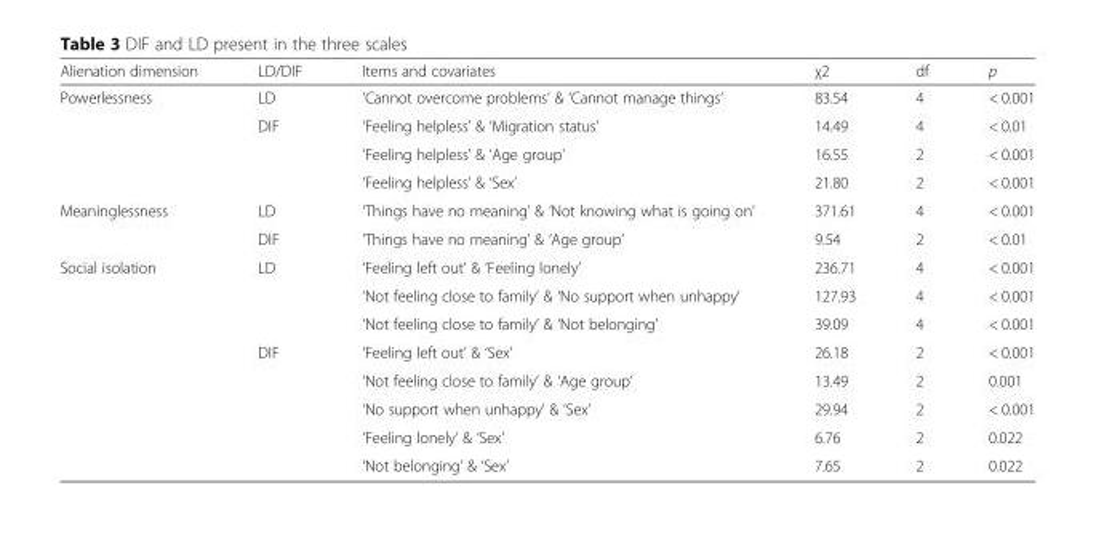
<table><thead><tr><td>Alienation dimension</td><td>LD/DIF</td><td>Items and covariates</td><td>χ2</td><td>df</td><td>p</td></tr></thead><tbody><tr><td rowspan="4">Powerlessness</td><td>LD</td><td>‘Cannot overcome problems’ &amp; ‘Cannot manage things’</td><td>83.54</td><td>4</td><td>&lt; 0.001</td></tr><tr><td rowspan="3">DIF</td><td>‘Feeling helpless’ &amp; ‘Migration status’</td><td>14.49</td><td>4</td><td>&lt; 0.01</td></tr><tr><td>‘Feeling helpless’ &amp; ‘Age group’</td><td>16.55</td><td>2</td><td>&lt; 0.001</td></tr><tr><td>‘Feeling helpless’ &amp; ‘Sex’</td><td>21.80</td><td>2</td><td>&lt; 0.001</td></tr><tr><td rowspan="2">Meaninglessness</td><td>LD</td><td>‘Things have no meaning’ &amp; ‘Not knowing what is going on’</td><td>371.61</td><td>4</td><td>&lt; 0.001</td></tr><tr><td>DIF</td><td>‘Things have no meaning’ &amp; ‘Age group’</td><td>9.54</td><td>2</td><td>&lt; 0.01</td></tr><tr><td rowspan="8">Social isolation</td><td>LD</td><td>‘Feeling left out’ &amp; ‘Feeling lonely’</td><td>236.71</td><td>4</td><td>&lt; 0.001</td></tr><tr><td></td><td>‘Not feeling close to family’ &amp; ‘No support when unhappy’</td><td>127.93</td><td>4</td><td>&lt; 0.001</td></tr><tr><td></td><td>‘Not feeling close to family’ &amp; ‘Not belonging’</td><td>39.09</td><td>4</td><td>&lt; 0.001</td></tr><tr><td rowspan="5">DIF</td><td>‘Feeling left out’ &amp; ‘Sex’</td><td>26.18</td><td>2</td><td>&lt; 0.001</td></tr><tr><td>‘Not feeling close to family’ &amp; ‘Age group’</td><td>13.49</td><td>2</td><td>0.001</td></tr><tr><td>‘No support when unhappy’ &amp; ‘Sex’</td><td>29.94</td><td>2</td><td>&lt; 0.001</td></tr><tr><td>‘Feeling lonely’ &amp; ‘Sex’</td><td>6.76</td><td>2</td><td>0.022</td></tr><tr><td>‘Not belonging’ &amp; ‘Sex’</td><td>7.65</td><td>2</td><td>0.022</td></tr></tbody></table>